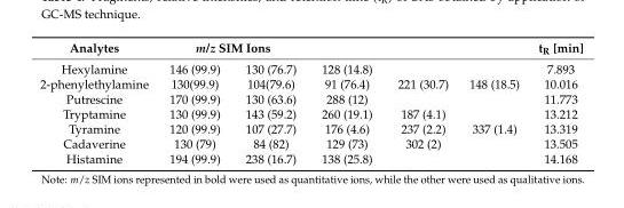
<table><thead><tr><td rowspan="2">Analytes Hexylamine</td><td colspan="2">m/z SIM Ions</td><td rowspan="2">128 (14.8)</td><td rowspan="2"></td><td rowspan="2"></td><td rowspan="2">t<sub>R</sub> [min] 7.893</td></tr><tr><td>146 (99.9)</td><td>130 (76.7)</td></tr></thead><tbody><tr><td>2-phenylethylamine</td><td>130(99.9)</td><td>104(79.6)</td><td>91 (76.4)</td><td>221 (30.7)</td><td>148 (18.5)</td><td>10.016</td></tr><tr><td>Putrescine</td><td>170 (99.9)</td><td>130 (63.6)</td><td>288 (12)</td><td></td><td></td><td>11.773</td></tr><tr><td>Tryptamine</td><td>130 (99.9)</td><td>143 (59.2)</td><td>260 (19.1)</td><td>187 (4.1)</td><td></td><td>13.212</td></tr><tr><td>Tyramine</td><td>120 (99.9)</td><td>107 (27.7)</td><td>176 (4.6)</td><td>237 (2.2)</td><td>337 (1.4)</td><td>13.319</td></tr><tr><td>Cadaverine</td><td>130 (79)</td><td>84 (82)</td><td>129 (73)</td><td>302 (2)</td><td></td><td>13.505</td></tr><tr><td>Histamine</td><td>194 (99.9)</td><td>238 (16.7)</td><td>138 (25.8)</td><td></td><td></td><td>14.168</td></tr></tbody></table>